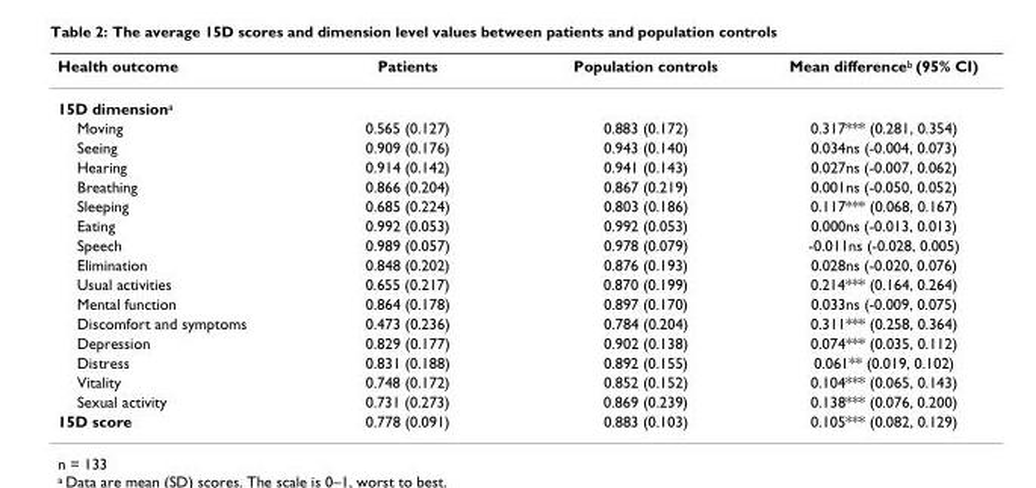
<table><thead><tr><td>Health outcome</td><td>Patients</td><td>Population controls</td><td>Mean difference<sup>b</sup> (95% CI)</td></tr></thead><tbody><tr><td colspan="4">15D dimension<sup>a</sup></td></tr><tr><td>Moving</td><td>0.565 (0.127)</td><td>0.883 (0.172)</td><td>0.317*** (0.281, 0.354)</td></tr><tr><td>Seeing</td><td>0.909 (0.176)</td><td>0.943 (0.140)</td><td>0.034ns (-0.004, 0.073)</td></tr><tr><td>Hearing</td><td>0.914 (0.142)</td><td>0.941 (0.143)</td><td>0.027ns (-0.007, 0.062)</td></tr><tr><td>Breathing</td><td>0.866 (0.204)</td><td>0.867 (0.219)</td><td>0.001ns (-0.050, 0.052)</td></tr><tr><td>Sleeping</td><td>0.685 (0.224)</td><td>0.803 (0.186)</td><td>0.117*** (0.068, 0.167)</td></tr><tr><td>Eating</td><td>0.992 (0.053)</td><td>0.992 (0.053)</td><td>0.000ns (-0.013, 0.013)</td></tr><tr><td>Speech</td><td>0.989 (0.057)</td><td>0.978 (0.079)</td><td>-0.011ns (-0.028, 0.005)</td></tr><tr><td>Elimination</td><td>0.848 (0.202)</td><td>0.876 (0.193)</td><td>0.028ns (-0.020, 0.076)</td></tr><tr><td>Usual activities</td><td>0.655 (0.217)</td><td>0.870 (0.199)</td><td>0.214*** (0.164, 0.264)</td></tr><tr><td>Mental function</td><td>0.864 (0.178)</td><td>0.897 (0.170)</td><td>0.033ns (-0.009, 0.075)</td></tr><tr><td>Discomfort and symptoms</td><td>0.473 (0.236)</td><td>0.784 (0.204)</td><td>0.311*** (0.258, 0.364)</td></tr><tr><td>Depression</td><td>0.829 (0.177)</td><td>0.902 (0.138)</td><td>0.074*** (0.035, 0.112)</td></tr><tr><td>Distress</td><td>0.831 (0.188)</td><td>0.892 (0.155)</td><td>0.061** (0.019, 0.102)</td></tr><tr><td>Vitality</td><td>0.748 (0.172)</td><td>0.852 (0.152)</td><td>0.104*** (0.065, 0.143)</td></tr><tr><td>Sexual activity</td><td>0.731 (0.273)</td><td>0.869 (0.239)</td><td>0.138*** (0.076, 0.200)</td></tr><tr><td>15D score</td><td>0.778 (0.091)</td><td>0.883 (0.103)</td><td>0.105*** (0.082, 0.129)</td></tr></tbody></table>